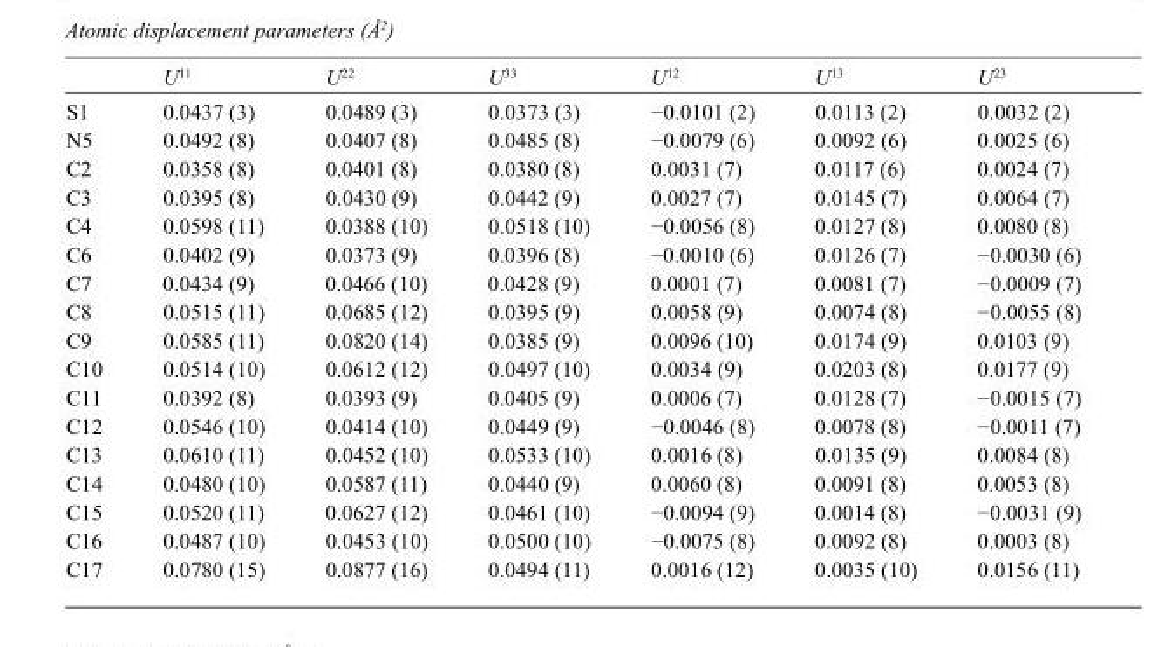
<table><thead><tr><td></td><td>U<sup>11</sup></td><td>U<sup>22</sup></td><td>U<sup>33</sup></td><td>U<sup>12</sup></td><td>U<sup>13</sup></td><td>U<sup>23</sup></td></tr></thead><tbody><tr><td>S1</td><td>0.0437 (3)</td><td>0.0489 (3)</td><td>0.0373 (3)</td><td>−0.0101 (2)</td><td>0.0113 (2)</td><td>0.0032 (2)</td></tr><tr><td>N5</td><td>0.0492 (8)</td><td>0.0407 (8)</td><td>0.0485 (8)</td><td>−0.0079 (6)</td><td>0.0092 (6)</td><td>0.0025 (6)</td></tr><tr><td>C2</td><td>0.0358 (8)</td><td>0.0401 (8)</td><td>0.0380 (8)</td><td>0.0031 (7)</td><td>0.0117 (6)</td><td>0.0024 (7)</td></tr><tr><td>C3</td><td>0.0395 (8)</td><td>0.0430 (9)</td><td>0.0442 (9)</td><td>0.0027 (7)</td><td>0.0145 (7)</td><td>0.0064 (7)</td></tr><tr><td>C4</td><td>0.0598 (11)</td><td>0.0388 (10)</td><td>0.0518 (10)</td><td>−0.0056 (8)</td><td>0.0127 (8)</td><td>0.0080 (8)</td></tr><tr><td>C6</td><td>0.0402 (9)</td><td>0.0373 (9)</td><td>0.0396 (8)</td><td>−0.0010 (6)</td><td>0.0126 (7)</td><td>−0.0030 (6)</td></tr><tr><td>C7</td><td>0.0434 (9)</td><td>0.0466 (10)</td><td>0.0428 (9)</td><td>0.0001 (7)</td><td>0.0081 (7)</td><td>−0.0009 (7)</td></tr><tr><td>C8</td><td>0.0515 (11)</td><td>0.0685 (12)</td><td>0.0395 (9)</td><td>0.0058 (9)</td><td>0.0074 (8)</td><td>−0.0055 (8)</td></tr><tr><td>C9</td><td>0.0585 (11)</td><td>0.0820 (14)</td><td>0.0385 (9)</td><td>0.0096 (10)</td><td>0.0174 (9)</td><td>0.0103 (9)</td></tr><tr><td>C10</td><td>0.0514 (10)</td><td>0.0612 (12)</td><td>0.0497 (10)</td><td>0.0034 (9)</td><td>0.0203 (8)</td><td>0.0177 (9)</td></tr><tr><td>C11</td><td>0.0392 (8)</td><td>0.0393 (9)</td><td>0.0405 (9)</td><td>0.0006 (7)</td><td>0.0128 (7)</td><td>−0.0015 (7)</td></tr><tr><td>C12</td><td>0.0546 (10)</td><td>0.0414 (10)</td><td>0.0449 (9)</td><td>−0.0046 (8)</td><td>0.0078 (8)</td><td>−0.0011 (7)</td></tr><tr><td>C13</td><td>0.0610 (11)</td><td>0.0452 (10)</td><td>0.0533 (10)</td><td>0.0016 (8)</td><td>0.0135 (9)</td><td>0.0084 (8)</td></tr><tr><td>C14</td><td>0.0480 (10)</td><td>0.0587 (11)</td><td>0.0440 (9)</td><td>0.0060 (8)</td><td>0.0091 (8)</td><td>0.0053 (8)</td></tr><tr><td>C15</td><td>0.0520 (11)</td><td>0.0627 (12)</td><td>0.0461 (10)</td><td>−0.0094 (9)</td><td>0.0014 (8)</td><td>−0.0031 (9)</td></tr><tr><td>C16</td><td>0.0487 (10)</td><td>0.0453 (10)</td><td>0.0500 (10)</td><td>−0.0075 (8)</td><td>0.0092 (8)</td><td>0.0003 (8)</td></tr><tr><td>C17</td><td>0.0780 (15)</td><td>0.0877 (16)</td><td>0.0494 (11)</td><td>0.0016 (12)</td><td>0.0035 (10)</td><td>0.0156 (11)</td></tr></tbody></table>